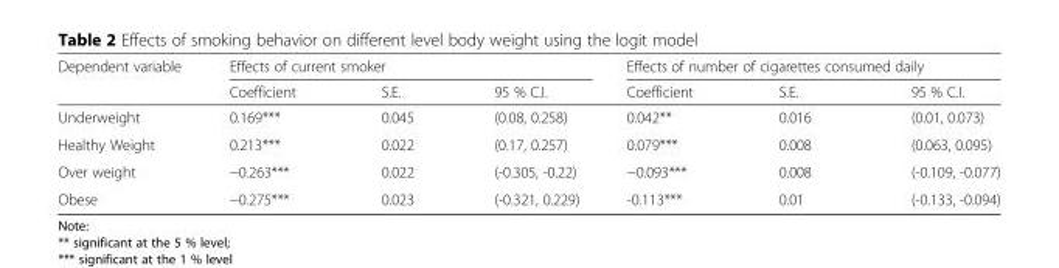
<table><thead><tr><td rowspan="2">Dependent variable</td><td colspan="3">Effects of current smoker</td><td colspan="3">Effects of number of cigarettes consumed daily</td></tr><tr><td>Coefficient</td><td>S.E.</td><td>95 % C.I.</td><td>Coefficient</td><td>S.E.</td><td>95 % C.I.</td></tr></thead><tbody><tr><td>Underweight</td><td>0.169***</td><td>0.045</td><td>(0.08, 0.258)</td><td>0.042**</td><td>0.016</td><td>(0.01, 0.073)</td></tr><tr><td>Healthy Weight</td><td>0.213***</td><td>0.022</td><td>(0.17, 0.257)</td><td>0.079***</td><td>0.008</td><td>(0.063, 0.095)</td></tr><tr><td>Over weight</td><td>−0.263***</td><td>0.022</td><td>(-0.305, -0.22)</td><td>−0.093***</td><td>0.008</td><td>(-0.109, -0.077)</td></tr><tr><td>Obese</td><td>−0.275***</td><td>0.023</td><td>(-0.321, 0.229)</td><td>-0.113***</td><td>0.01</td><td>(-0.133, -0.094)</td></tr></tbody></table>